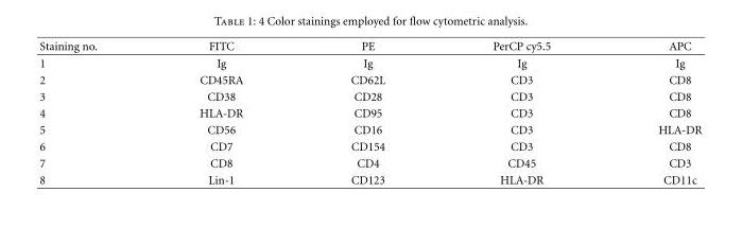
<table><thead><tr><td>Staining no.</td><td>FITC</td><td>PE</td><td>PerCP cy5.5</td><td>APC</td></tr></thead><tbody><tr><td>1</td><td>Ig</td><td>Ig</td><td>Ig</td><td>Ig</td></tr><tr><td>2</td><td>CD45RA</td><td>CD62L</td><td>CD3</td><td>CD8</td></tr><tr><td>3</td><td>CD38</td><td>CD28</td><td>CD3</td><td>CD8</td></tr><tr><td>4</td><td>HLA-DR</td><td>CD95</td><td>CD3</td><td>CD8</td></tr><tr><td>5</td><td>CD56</td><td>CD16</td><td>CD3</td><td>HLA-DR</td></tr><tr><td>6</td><td>CD7</td><td>CD154</td><td>CD3</td><td>CD8</td></tr><tr><td>7</td><td>CD8</td><td>CD4</td><td>CD45</td><td>CD3</td></tr><tr><td>8</td><td>Lin-1</td><td>CD123</td><td>HLA-DR</td><td>CD11c</td></tr></tbody></table>